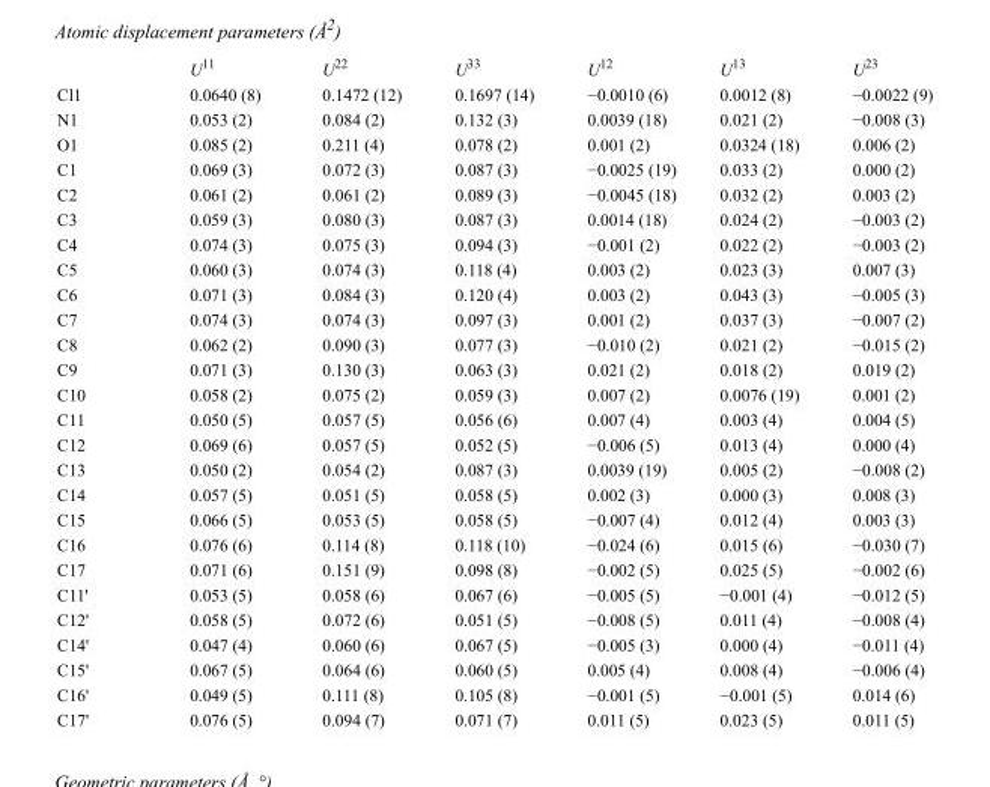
<table><thead><tr><td></td><td>U<sup>11</sup></td><td>U<sup>22</sup></td><td>U<sup>33</sup></td><td>U<sup>12</sup></td><td>U<sup>13</sup></td><td>U<sup>23</sup></td></tr></thead><tbody><tr><td>Cl1</td><td>0.0640 (8)</td><td>0.1472 (12)</td><td>0.1697 (14)</td><td>−0.0010 (6)</td><td>0.0012 (8)</td><td>−0.0022 (9)</td></tr><tr><td>N1</td><td>0.053 (2)</td><td>0.084 (2)</td><td>0.132 (3)</td><td>0.0039 (18)</td><td>0.021 (2)</td><td>−0.008 (3)</td></tr><tr><td>O1</td><td>0.085 (2)</td><td>0.211 (4)</td><td>0.078 (2)</td><td>0.001 (2)</td><td>0.0324 (18)</td><td>0.006 (2)</td></tr><tr><td>C1</td><td>0.069 (3)</td><td>0.072 (3)</td><td>0.087 (3)</td><td>−0.0025 (19)</td><td>0.033 (2)</td><td>0.000 (2)</td></tr><tr><td>C2</td><td>0.061 (2)</td><td>0.061 (2)</td><td>0.089 (3)</td><td>−0.0045 (18)</td><td>0.032 (2)</td><td>0.003 (2)</td></tr><tr><td>C3</td><td>0.059 (3)</td><td>0.080 (3)</td><td>0.087 (3)</td><td>0.0014 (18)</td><td>0.024 (2)</td><td>−0.003 (2)</td></tr><tr><td>C4</td><td>0.074 (3)</td><td>0.075 (3)</td><td>0.094 (3)</td><td>−0.001 (2)</td><td>0.022 (2)</td><td>−0.003 (2)</td></tr><tr><td>C5</td><td>0.060 (3)</td><td>0.074 (3)</td><td>0.118 (4)</td><td>0.003 (2)</td><td>0.023 (3)</td><td>0.007 (3)</td></tr><tr><td>C6</td><td>0.071 (3)</td><td>0.084 (3)</td><td>0.120 (4)</td><td>0.003 (2)</td><td>0.043 (3)</td><td>−0.005 (3)</td></tr><tr><td>C7</td><td>0.074 (3)</td><td>0.074 (3)</td><td>0.097 (3)</td><td>0.001 (2)</td><td>0.037 (3)</td><td>−0.007 (2)</td></tr><tr><td>C8</td><td>0.062 (2)</td><td>0.090 (3)</td><td>0.077 (3)</td><td>−0.010 (2)</td><td>0.021 (2)</td><td>−0.015 (2)</td></tr><tr><td>C9</td><td>0.071 (3)</td><td>0.130 (3)</td><td>0.063 (3)</td><td>0.021 (2)</td><td>0.018 (2)</td><td>0.019 (2)</td></tr><tr><td>C10</td><td>0.058 (2)</td><td>0.075 (2)</td><td>0.059 (3)</td><td>0.007 (2)</td><td>0.0076 (19)</td><td>0.001 (2)</td></tr><tr><td>C11</td><td>0.050 (5)</td><td>0.057 (5)</td><td>0.056 (6)</td><td>0.007 (4)</td><td>0.003 (4)</td><td>0.004 (5)</td></tr><tr><td>C12</td><td>0.069 (6)</td><td>0.057 (5)</td><td>0.052 (5)</td><td>−0.006 (5)</td><td>0.013 (4)</td><td>0.000 (4)</td></tr><tr><td>C13</td><td>0.050 (2)</td><td>0.054 (2)</td><td>0.087 (3)</td><td>0.0039 (19)</td><td>0.005 (2)</td><td>−0.008 (2)</td></tr><tr><td>C14</td><td>0.057 (5)</td><td>0.051 (5)</td><td>0.058 (5)</td><td>0.002 (3)</td><td>0.000 (3)</td><td>0.008 (3)</td></tr><tr><td>C15</td><td>0.066 (5)</td><td>0.053 (5)</td><td>0.058 (5)</td><td>−0.007 (4)</td><td>0.012 (4)</td><td>0.003 (3)</td></tr><tr><td>C16</td><td>0.076 (6)</td><td>0.114 (8)</td><td>0.118 (10)</td><td>−0.024 (6)</td><td>0.015 (6)</td><td>−0.030 (7)</td></tr><tr><td>C17</td><td>0.071 (6)</td><td>0.151 (9)</td><td>0.098 (8)</td><td>−0.002 (5)</td><td>0.025 (5)</td><td>−0.002 (6)</td></tr><tr><td>C11&#x27;</td><td>0.053 (5)</td><td>0.058 (6)</td><td>0.067 (6)</td><td>−0.005 (5)</td><td>−0.001 (4)</td><td>−0.012 (5)</td></tr><tr><td>C12&#x27;</td><td>0.058 (5)</td><td>0.072 (6)</td><td>0.051 (5)</td><td>−0.008 (5)</td><td>0.011 (4)</td><td>−0.008 (4)</td></tr><tr><td>C14&#x27;</td><td>0.047 (4)</td><td>0.060 (6)</td><td>0.067 (5)</td><td>−0.005 (3)</td><td>0.000 (4)</td><td>−0.011 (4)</td></tr><tr><td>C15&#x27;</td><td>0.067 (5)</td><td>0.064 (6)</td><td>0.060 (5)</td><td>0.005 (4)</td><td>0.008 (4)</td><td>−0.006 (4)</td></tr><tr><td>C16&#x27;</td><td>0.049 (5)</td><td>0.111 (8)</td><td>0.105 (8)</td><td>−0.001 (5)</td><td>−0.001 (5)</td><td>0.014 (6)</td></tr><tr><td>C17&#x27;</td><td>0.076 (5)</td><td>0.094 (7)</td><td>0.071 (7)</td><td>0.011 (5)</td><td>0.023 (5)</td><td>0.011 (5)</td></tr></tbody></table>